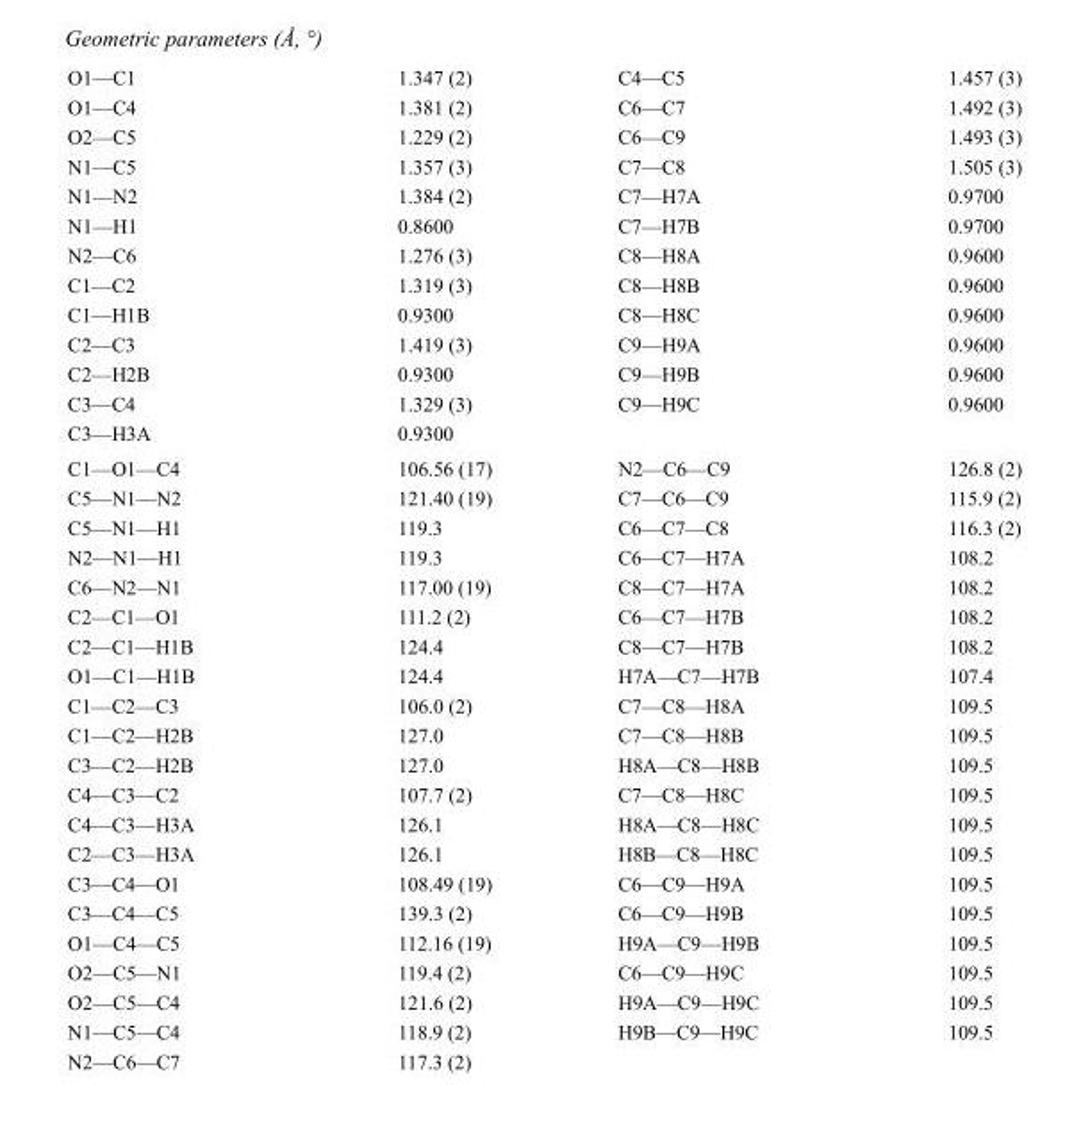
<table><tbody><tr><td>O1—C1</td><td>1.347 (2)</td><td>C4—C5</td><td>1.457 (3)</td></tr><tr><td>O1—C4</td><td>1.381 (2)</td><td>C6—C7</td><td>1.492 (3)</td></tr><tr><td>O2—C5</td><td>1.229 (2)</td><td>C6—C9</td><td>1.493 (3)</td></tr><tr><td>N1—C5</td><td>1.357 (3)</td><td>C7—C8</td><td>1.505 (3)</td></tr><tr><td>N1—N2</td><td>1.384 (2)</td><td>C7—H7A</td><td>0.9700</td></tr><tr><td>N1—H1</td><td>0.8600</td><td>C7—H7B</td><td>0.9700</td></tr><tr><td>N2—C6</td><td>1.276 (3)</td><td>C8—H8A</td><td>0.9600</td></tr><tr><td>C1—C2</td><td>1.319 (3)</td><td>C8—H8B</td><td>0.9600</td></tr><tr><td>C1—H1B</td><td>0.9300</td><td>C8—H8C</td><td>0.9600</td></tr><tr><td>C2—C3</td><td>1.419 (3)</td><td>C9—H9A</td><td>0.9600</td></tr><tr><td>C2—H2B</td><td>0.9300</td><td>C9—H9B</td><td>0.9600</td></tr><tr><td>C3—C4</td><td>1.329 (3)</td><td>C9—H9C</td><td>0.9600</td></tr><tr><td>C3—H3A</td><td>0.9300</td><td></td><td></td></tr><tr><td>C1—O1—C4</td><td>106.56 (17)</td><td>N2—C6—C9</td><td>126.8 (2)</td></tr><tr><td>C5—N1—N2</td><td>121.40 (19)</td><td>C7—C6—C9</td><td>115.9 (2)</td></tr><tr><td>C5—N1—H1</td><td>119.3</td><td>C6—C7—C8</td><td>116.3 (2)</td></tr><tr><td>N2—N1—H1</td><td>119.3</td><td>C6—C7—H7A</td><td>108.2</td></tr><tr><td>C6—N2—N1</td><td>117.00 (19)</td><td>C8—C7—H7A</td><td>108.2</td></tr><tr><td>C2—C1—O1</td><td>111.2 (2)</td><td>C6—C7—H7B</td><td>108.2</td></tr><tr><td>C2—C1—H1B</td><td>124.4</td><td>C8—C7—H7B</td><td>108.2</td></tr><tr><td>O1—C1—H1B</td><td>124.4</td><td>H7A—C7—H7B</td><td>107.4</td></tr><tr><td>C1—C2—C3</td><td>106.0 (2)</td><td>C7—C8—H8A</td><td>109.5</td></tr><tr><td>C1—C2—H2B</td><td>127.0</td><td>C7—C8—H8B</td><td>109.5</td></tr><tr><td>C3—C2—H2B</td><td>127.0</td><td>H8A—C8—H8B</td><td>109.5</td></tr><tr><td>C4—C3—C2</td><td>107.7 (2)</td><td>C7—C8—H8C</td><td>109.5</td></tr><tr><td>C4—C3—H3A</td><td>126.1</td><td>H8A—C8—H8C</td><td>109.5</td></tr><tr><td>C2—C3—H3A</td><td>126.1</td><td>H8B—C8—H8C</td><td>109.5</td></tr><tr><td>C3—C4—O1</td><td>108.49 (19)</td><td>C6—C9—H9A</td><td>109.5</td></tr><tr><td>C3—C4—C5</td><td>139.3 (2)</td><td>C6—C9—H9B</td><td>109.5</td></tr><tr><td>O1—C4—C5</td><td>112.16 (19)</td><td>H9A—C9—H9B</td><td>109.5</td></tr><tr><td>O2—C5—N1</td><td>119.4 (2)</td><td>C6—C9—H9C</td><td>109.5</td></tr><tr><td>O2—C5—C4</td><td>121.6 (2)</td><td>H9A—C9—H9C</td><td>109.5</td></tr><tr><td>N1—C5—C4</td><td>118.9 (2)</td><td>H9B—C9—H9C</td><td>109.5</td></tr><tr><td>N2—C6—C7</td><td>117.3 (2)</td><td></td><td></td></tr></tbody></table>